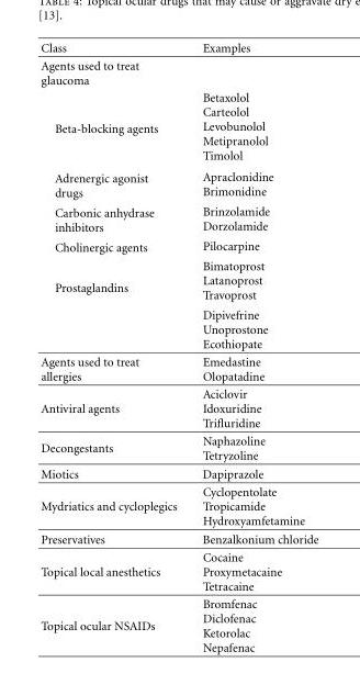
<table><thead><tr><td>Class</td><td>Examples</td></tr></thead><tbody><tr><td colspan="2">Agents used to treat glaucoma</td></tr><tr><td>Beta-blocking agents</td><td>Betaxolol Carteolol Levobunolol Metipranolol Timolol</td></tr><tr><td>Adrenergic agonist drugs</td><td>Apraclonidine Brimonidine</td></tr><tr><td>Carbonic anhydrase inhibitors</td><td>Brinzolamide Dorzolamide</td></tr><tr><td>Cholinergic agents</td><td>Pilocarpine</td></tr><tr><td rowspan="2">Prostaglandins</td><td>Bimatoprost Latanoprost Travoprost</td></tr><tr><td>Dipivefrine Unoprostone Ecothiopate</td></tr><tr><td>Agents used to treat allergies</td><td>Emedastine Olopatadine</td></tr><tr><td>Antiviral agents</td><td>Aciclovir Idoxuridine Trifluridine</td></tr><tr><td>Decongestants</td><td>Naphazoline Tetryzoline</td></tr><tr><td>Miotics</td><td>Dapiprazole</td></tr><tr><td>Mydriatics and cycloplegics</td><td>Cyclopentolate Tropicamide Hydroxyamfetamine</td></tr><tr><td>Preservatives</td><td>Benzalkonium chloride</td></tr><tr><td>Topical local anesthetics</td><td>Cocaine Proxymetacaine Tetracaine</td></tr><tr><td>Topical ocular NSAIDs</td><td>Bromfenac Diclofenac Ketorolac Nepafenac</td></tr></tbody></table>